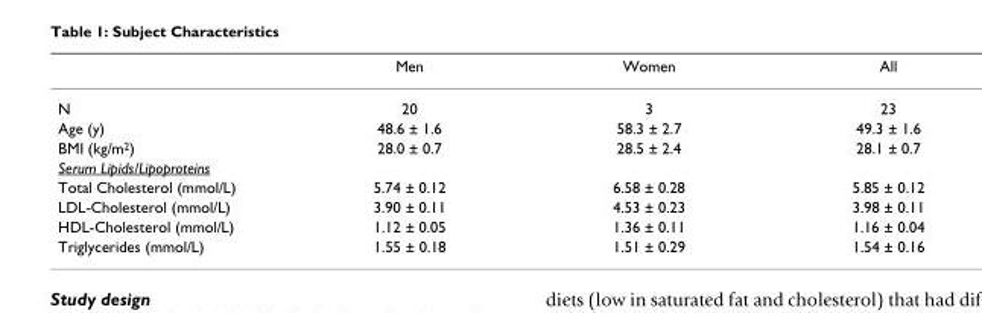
<table><thead><tr><td></td><td>Men</td><td>Women</td><td>All</td></tr></thead><tbody><tr><td>N</td><td>20</td><td>3</td><td>23</td></tr><tr><td>Age (y)</td><td>48.6 ± 1.6</td><td>58.3 ± 2.7</td><td>49.3 ± 1.6</td></tr><tr><td>BMI (kg/m<sup>2</sup>)</td><td>28.0 ± 0.7</td><td>28.5 ± 2.4</td><td>28.1 ± 0.7</td></tr><tr><td colspan="4">Serum Lipids/Lipoproteins</td></tr><tr><td>Total Cholesterol (mmol/L)</td><td>5.74 ± 0.12</td><td>6.58 ± 0.28</td><td>5.85 ± 0.12</td></tr><tr><td>LDL-Cholesterol (mmol/L)</td><td>3.90 ± 0.11</td><td>4.53 ± 0.23</td><td>3.98 ± 0.11</td></tr><tr><td>HDL-Cholesterol (mmol/L)</td><td>1.12 ± 0.05</td><td>1.36 ± 0.11</td><td>1.16 ± 0.04</td></tr><tr><td>Triglycerides (mmol/L)</td><td>1.55 ± 0.18</td><td>1.51 ± 0.29</td><td>1.54 ± 0.16</td></tr></tbody></table>